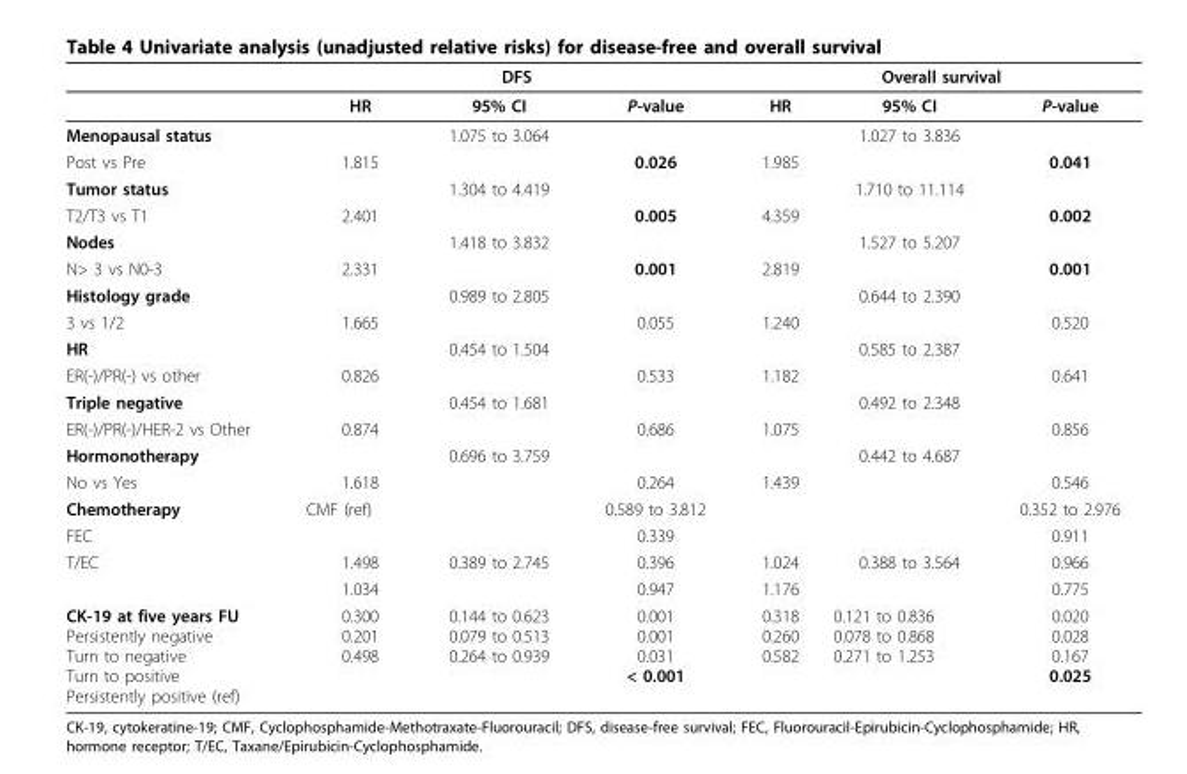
<table><thead><tr><td rowspan="2"></td><td colspan="3">DFS</td><td colspan="3">Overall survival</td></tr><tr><td>HR</td><td>95% CI</td><td>P-value</td><td>HR</td><td>95% CI</td><td>P-value</td></tr></thead><tbody><tr><td>Menopausal status</td><td></td><td>1.075 to 3.064</td><td></td><td></td><td>1.027 to 3.836</td><td></td></tr><tr><td>Post vs Pre</td><td>1.815</td><td></td><td>0.026</td><td>1.985</td><td></td><td>0.041</td></tr><tr><td>Tumor status</td><td></td><td>1.304 to 4.419</td><td></td><td></td><td>1.710 to 11.114</td><td></td></tr><tr><td>T2/T3 vs T1</td><td>2.401</td><td></td><td>0.005</td><td>4.359</td><td></td><td>0.002</td></tr><tr><td>Nodes</td><td></td><td>1.418 to 3.832</td><td></td><td></td><td>1.527 to 5.207</td><td></td></tr><tr><td>N&gt; 3 vs N0-3</td><td>2.331</td><td></td><td>0.001</td><td>2.819</td><td></td><td>0.001</td></tr><tr><td>Histology grade</td><td></td><td>0.989 to 2.805</td><td></td><td></td><td>0.644 to 2.390</td><td></td></tr><tr><td>3 vs 1/2</td><td>1.665</td><td></td><td>0.055</td><td>1.240</td><td></td><td>0.520</td></tr><tr><td>HR</td><td></td><td>0.454 to 1.504</td><td></td><td></td><td>0.585 to 2.387</td><td></td></tr><tr><td>ER(-)/PR(-) vs other</td><td>0.826</td><td></td><td>0.533</td><td>1.182</td><td></td><td>0.641</td></tr><tr><td>Triple negative</td><td></td><td>0.454 to 1.681</td><td></td><td></td><td>0.492 to 2.348</td><td></td></tr><tr><td>ER(-)/PR(-)/HER-2 vs Other</td><td>0.874</td><td></td><td>0.686</td><td>1.075</td><td></td><td>0.856</td></tr><tr><td>Hormonotherapy</td><td></td><td>0.696 to 3.759</td><td></td><td></td><td>0.442 to 4.687</td><td></td></tr><tr><td>No vs Yes</td><td>1.618</td><td></td><td>0.264</td><td>1.439</td><td></td><td>0.546</td></tr><tr><td>Chemotherapy</td><td>CMF (ref)</td><td></td><td>0.589 to 3.812</td><td></td><td></td><td>0.352 to 2.976</td></tr><tr><td>FEC</td><td></td><td></td><td>0.339</td><td></td><td></td><td>0.911</td></tr><tr><td rowspan="2">T/EC</td><td>1.498</td><td>0.389 to 2.745</td><td>0.396</td><td>1.024</td><td>0.388 to 3.564</td><td>0.966</td></tr><tr><td>1.034</td><td></td><td>0.947</td><td>1.176</td><td></td><td>0.775</td></tr><tr><td>CK-19 at five years FU Persistently negative Turn to negative Turn to positive Persistently positive (ref)</td><td>0.300 0.201 0.498</td><td>0.144 to 0.623 0.079 to 0.513 0.264 to 0.939</td><td>0.001 0.001 0.031 &lt; 0.001</td><td>0.318 0.260 0.582</td><td>0.121 to 0.836 0.078 to 0.868 0.271 to 1.253</td><td>0.020 0.028 0.167 0.025</td></tr></tbody></table>